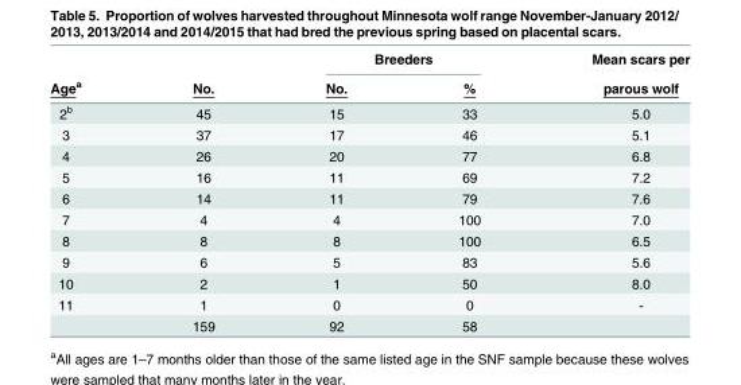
<table><thead><tr><td rowspan="2">Age<sup>a</sup></td><td rowspan="2">No.</td><td colspan="2">Breeders</td><td rowspan="2">Mean scars per parous wolf</td></tr><tr><td>No.</td><td>%</td></tr></thead><tbody><tr><td>2<sup>b</sup></td><td>45</td><td>15</td><td>33</td><td>5.0</td></tr><tr><td>3</td><td>37</td><td>17</td><td>46</td><td>5.1</td></tr><tr><td>4</td><td>26</td><td>20</td><td>77</td><td>6.8</td></tr><tr><td>5</td><td>16</td><td>11</td><td>69</td><td>7.2</td></tr><tr><td>6</td><td>14</td><td>11</td><td>79</td><td>7.6</td></tr><tr><td>7</td><td>4</td><td>4</td><td>100</td><td>7.0</td></tr><tr><td>8</td><td>8</td><td>8</td><td>100</td><td>6.5</td></tr><tr><td>9</td><td>6</td><td>5</td><td>83</td><td>5.6</td></tr><tr><td>10</td><td>2</td><td>1</td><td>50</td><td>8.0</td></tr><tr><td rowspan="2">11</td><td>1</td><td>0</td><td>0</td><td>-</td></tr><tr><td>159</td><td>92</td><td>58</td><td></td></tr></tbody></table>